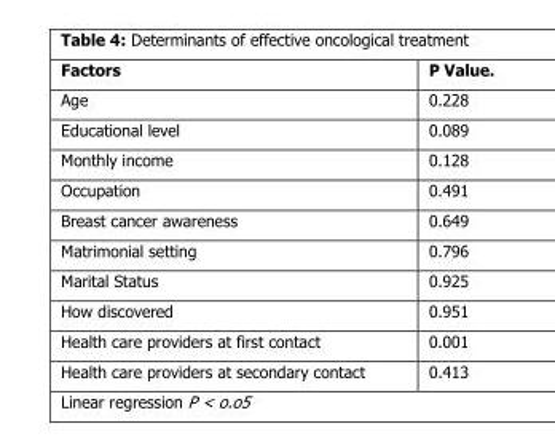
<table><thead><tr><td>Factors</td><td>P Value.</td></tr></thead><tbody><tr><td>Age</td><td>0.228</td></tr><tr><td>Educational level</td><td>0.089</td></tr><tr><td>Monthly income</td><td>0.128</td></tr><tr><td>Occupation</td><td>0.491</td></tr><tr><td>Breast cancer awareness</td><td>0.649</td></tr><tr><td>Matrimonial setting</td><td>0.796</td></tr><tr><td>Marital Status</td><td>0.925</td></tr><tr><td>How discovered</td><td>0.951</td></tr><tr><td>Health care providers at first contact</td><td>0.001</td></tr><tr><td>Health care providers at secondary contact</td><td>0.413</td></tr></tbody></table>